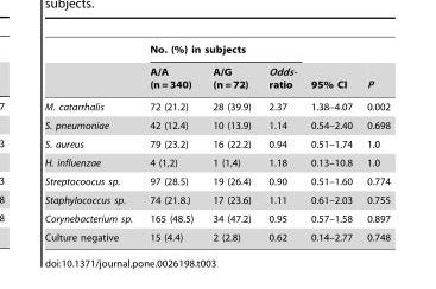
<table><thead><tr><td rowspan="2"></td><td colspan="3">No. (%) in subjects</td><td rowspan="2">95% CI</td><td rowspan="2">P</td></tr><tr><td>A/A (n = 340)</td><td>A/G (n = 72)</td><td>Odds- ratio</td></tr></thead><tbody><tr><td>M. catarrhalis</td><td>72 (21.2)</td><td>28 (39.9)</td><td>2.37</td><td>1.38–4.07</td><td>0.002</td></tr><tr><td>S. pneumoniae</td><td>42 (12.4)</td><td>10 (13.9)</td><td>1.14</td><td>0.54–2.40</td><td>0.698</td></tr><tr><td>S. aureus</td><td>79 (23.2)</td><td>16 (22.2)</td><td>0.94</td><td>0.51–1.74</td><td>1.0</td></tr><tr><td>H. influenzae</td><td>4 (1,2)</td><td>1 (1,4)</td><td>1.18</td><td>0.13–10.8</td><td>1.0</td></tr><tr><td>Streptocoocus sp.</td><td>97 (28.5)</td><td>19 (26.4)</td><td>0.90</td><td>0.51–1.60</td><td>0.774</td></tr><tr><td>Staphylococcus sp.</td><td>74 (21.8.)</td><td>17 (23.6)</td><td>1.11</td><td>0.61–2.03</td><td>0.755</td></tr><tr><td>Corynebacterium sp.</td><td>165 (48.5)</td><td>34 (47.2)</td><td>0.95</td><td>0.57–1.58</td><td>0.897</td></tr><tr><td>Culture negative</td><td>15 (4.4)</td><td>2 (2.8)</td><td>0.62</td><td>0.14–2.77</td><td>0.748</td></tr></tbody></table>